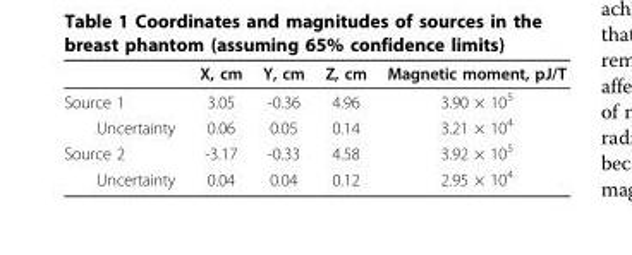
<table><thead><tr><td></td><td>X, cm</td><td>Y, cm</td><td>Z, cm</td><td>Magnetic moment, pJ/T</td></tr></thead><tbody><tr><td>Source 1</td><td>3.05</td><td>-0.36</td><td>4.96</td><td>3.90 × 10<sup>5</sup></td></tr><tr><td>Uncertainty</td><td>0.06</td><td>0.05</td><td>0.14</td><td>3.21 × 10<sup>4</sup></td></tr><tr><td>Source 2</td><td>-3.17</td><td>-0.33</td><td>4.58</td><td>3.92 × 10<sup>5</sup></td></tr><tr><td>Uncertainty</td><td>0.04</td><td>0.04</td><td>0.12</td><td>2.95 × 10<sup>4</sup></td></tr></tbody></table>